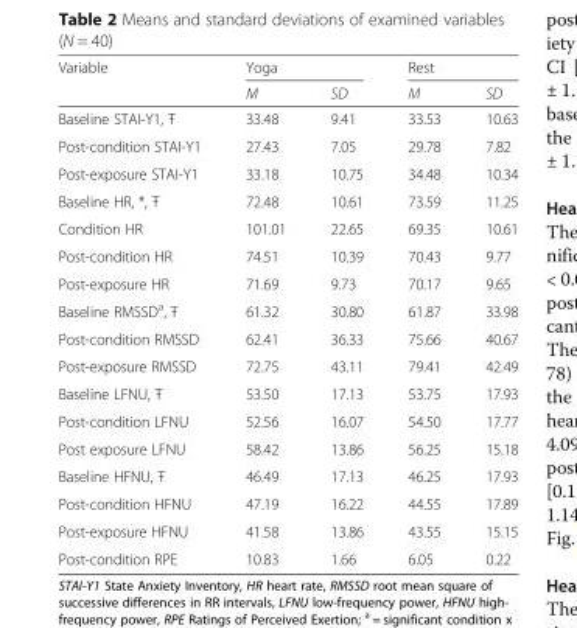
<table><thead><tr><td rowspan="2">Variable</td><td colspan="2">Yoga</td><td colspan="2">Rest</td></tr><tr><td>M</td><td>SD</td><td>M</td><td>SD</td></tr></thead><tbody><tr><td>Baseline STAI-Y1, Ŧ</td><td>33.48</td><td>9.41</td><td>33.53</td><td>10.63</td></tr><tr><td>Post-condition STAI-Y1</td><td>27.43</td><td>7.05</td><td>29.78</td><td>7.82</td></tr><tr><td>Post-exposure STAI-Y1</td><td>33.18</td><td>10.75</td><td>34.48</td><td>10.34</td></tr><tr><td>Baseline HR, *, Ŧ</td><td>72.48</td><td>10.61</td><td>73.59</td><td>11.25</td></tr><tr><td>Condition HR</td><td>101.01</td><td>22.65</td><td>69.35</td><td>10.61</td></tr><tr><td>Post-condition HR</td><td>74.51</td><td>10.39</td><td>70.43</td><td>9.77</td></tr><tr><td>Post-exposure HR</td><td>71.69</td><td>9.73</td><td>70.17</td><td>9.65</td></tr><tr><td>Baseline RMSSD<sup>a</sup>, Ŧ</td><td>61.32</td><td>30.80</td><td>61.87</td><td>33.98</td></tr><tr><td>Post-condition RMSSD</td><td>62.41</td><td>36.33</td><td>75.66</td><td>40.67</td></tr><tr><td>Post-exposure RMSSD</td><td>72.75</td><td>43.11</td><td>79.41</td><td>42.49</td></tr><tr><td>Baseline LFNU, Ŧ</td><td>53.50</td><td>17.13</td><td>53.75</td><td>17.93</td></tr><tr><td>Post-condition LFNU</td><td>52.56</td><td>16.07</td><td>54.50</td><td>17.77</td></tr><tr><td>Post exposure LFNU</td><td>58.42</td><td>13.86</td><td>56.25</td><td>15.18</td></tr><tr><td>Baseline HFNU, Ŧ</td><td>46.49</td><td>17.13</td><td>46.25</td><td>17.93</td></tr><tr><td>Post-condition HFNU</td><td>47.19</td><td>16.22</td><td>44.55</td><td>17.89</td></tr><tr><td>Post-exposure HFNU</td><td>41.58</td><td>13.86</td><td>43.55</td><td>15.15</td></tr><tr><td>Post-condition RPE</td><td>10.83</td><td>1.66</td><td>6.05</td><td>0.22</td></tr></tbody></table>